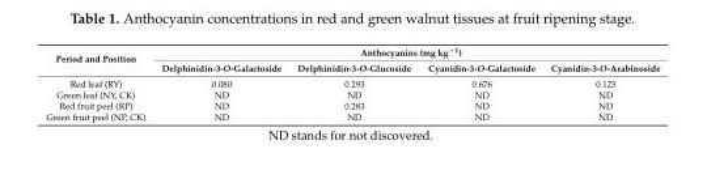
<table><thead><tr><td rowspan="2">Period and Position</td><td colspan="4">Anthocyanins (mg kg<sup>−1</sup>)</td></tr><tr><td>Delphinidin-3-O-Galactoside</td><td>Delphinidin-3-O-Glucoside</td><td>Cyanidin-3-O-Galactoside</td><td>Cyanidin-3-O-Arabinoside</td></tr></thead><tbody><tr><td>Red leaf (RY)</td><td>0.080</td><td>0.293</td><td>0.676</td><td>0.123</td></tr><tr><td>Green leaf (NY, CK)</td><td>ND</td><td>ND</td><td>ND</td><td>ND</td></tr><tr><td>Red fruit peel (RP)</td><td>ND</td><td>0.283</td><td>ND</td><td>ND</td></tr><tr><td>Green fruit peel (NP, CK)</td><td>ND</td><td>ND</td><td>ND</td><td>ND</td></tr></tbody></table>